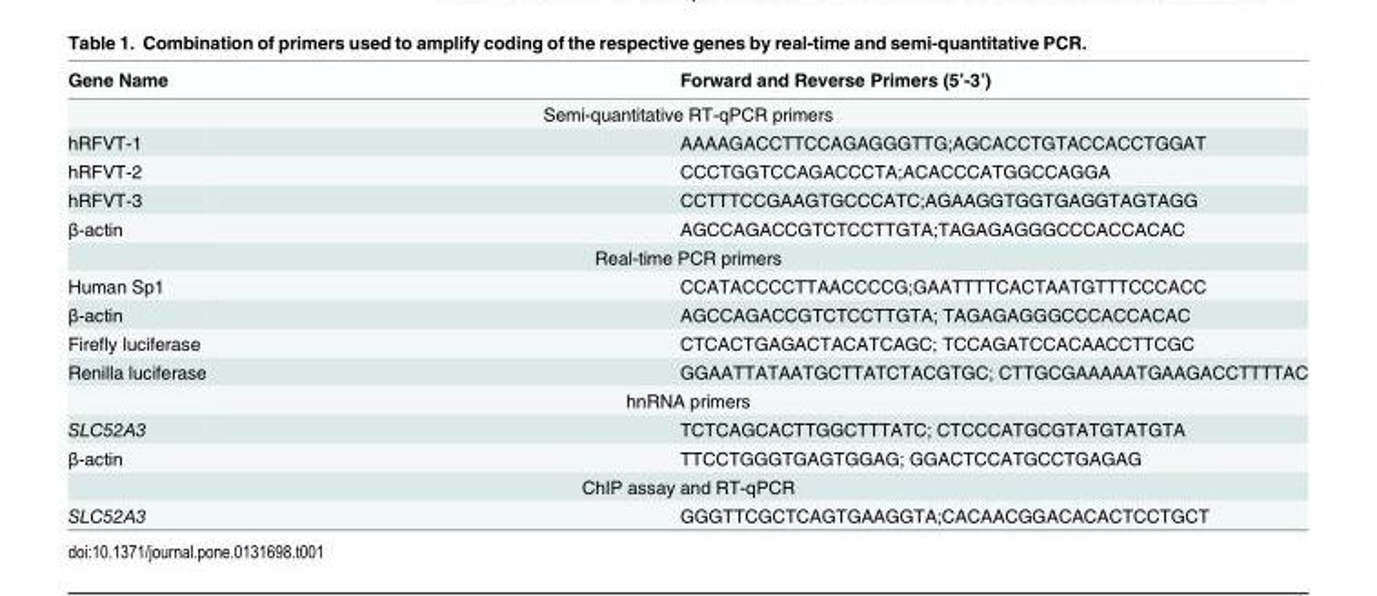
<table><thead><tr><td>Gene Name</td><td>Forward and Reverse Primers (5’-3’)</td></tr></thead><tbody><tr><td colspan="2">Semi-quantitative RT-qPCR primers</td></tr><tr><td>hRFVT-1</td><td>AAAAGACCTTCCAGAGGGTTG;AGCACCTGTACCACCTGGAT</td></tr><tr><td>hRFVT-2</td><td>CCCTGGTCCAGACCCTA;ACACCCATGGCCAGGA</td></tr><tr><td>hRFVT-3</td><td>CCTTTCCGAAGTGCCCATC;AGAAGGTGGTGAGGTAGTAGG</td></tr><tr><td>β-actin</td><td>AGCCAGACCGTCTCCTTGTA;TAGAGAGGGCCCACCACAC</td></tr><tr><td colspan="2">Real-time PCR primers</td></tr><tr><td>Human Sp1</td><td>CCATACCCCTTAACCCCG;GAATTTTCACTAATGTTTCCCACC</td></tr><tr><td>β-actin</td><td>AGCCAGACCGTCTCCTTGTA; TAGAGAGGGCCCACCACAC</td></tr><tr><td>Firefly luciferase</td><td>CTCACTGAGACTACATCAGC; TCCAGATCCACAACCTTCGC</td></tr><tr><td>Renilla luciferase</td><td>GGAATTATAATGCTTATCTACGTGC; CTTGCGAAAAATGAAGACCTTTTAC</td></tr><tr><td colspan="2">hnRNA primers</td></tr><tr><td>SLC52A3</td><td>TCTCAGCACTTGGCTTTATC; CTCCCATGCGTATGTATGTA</td></tr><tr><td>β-actin</td><td>TTCCTGGGTGAGTGGAG; GGACTCCATGCCTGAGAG</td></tr><tr><td colspan="2">ChIP assay and RT-qPCR</td></tr><tr><td>SLC52A3</td><td>GGGTTCGCTCAGTGAAGGTA;CACAACGGACACACTCCTGCT</td></tr></tbody></table>